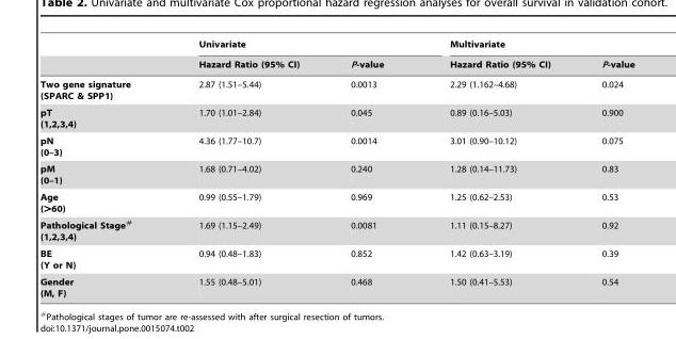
<table><thead><tr><td rowspan="2"></td><td colspan="2">Univariate</td><td colspan="2">Multivariate</td></tr><tr><td>Hazard Ratio (95% CI)</td><td>P-value</td><td>Hazard Ratio (95% CI)</td><td>P-value</td></tr></thead><tbody><tr><td>Two gene signature (SPARC &amp; SPP1)</td><td>2.87 (1.51–5.44)</td><td>0.0013</td><td>2.29 (1.162–4.68)</td><td>0.024</td></tr><tr><td>pT (1,2,3,4)</td><td>1.70 (1.01–2.84)</td><td>0.045</td><td>0.89 (0.16–5.03)</td><td>0.900</td></tr><tr><td>pN (0–3)</td><td>4.36 (1.77–10.7)</td><td>0.0014</td><td>3.01 (0.90–10.12)</td><td>0.075</td></tr><tr><td>pM (0–1)</td><td>1.68 (0.71–4.02)</td><td>0.240</td><td>1.28 (0.14–11.73)</td><td>0.83</td></tr><tr><td>Age (&gt;60)</td><td>0.99 (0.55–1.79)</td><td>0.969</td><td>1.25 (0.62–2.53)</td><td>0.53</td></tr><tr><td>Pathological Stage# (1,2,3,4)</td><td>1.69 (1.15–2.49)</td><td>0.0081</td><td>1.11 (0.15–8.27)</td><td>0.92</td></tr><tr><td>BE (Y or N)</td><td>0.94 (0.48–1.83)</td><td>0.852</td><td>1.42 (0.63–3.19)</td><td>0.39</td></tr><tr><td>Gender (M, F)</td><td>1.55 (0.48–5.01)</td><td>0.468</td><td>1.50 (0.41–5.53)</td><td>0.54</td></tr></tbody></table>